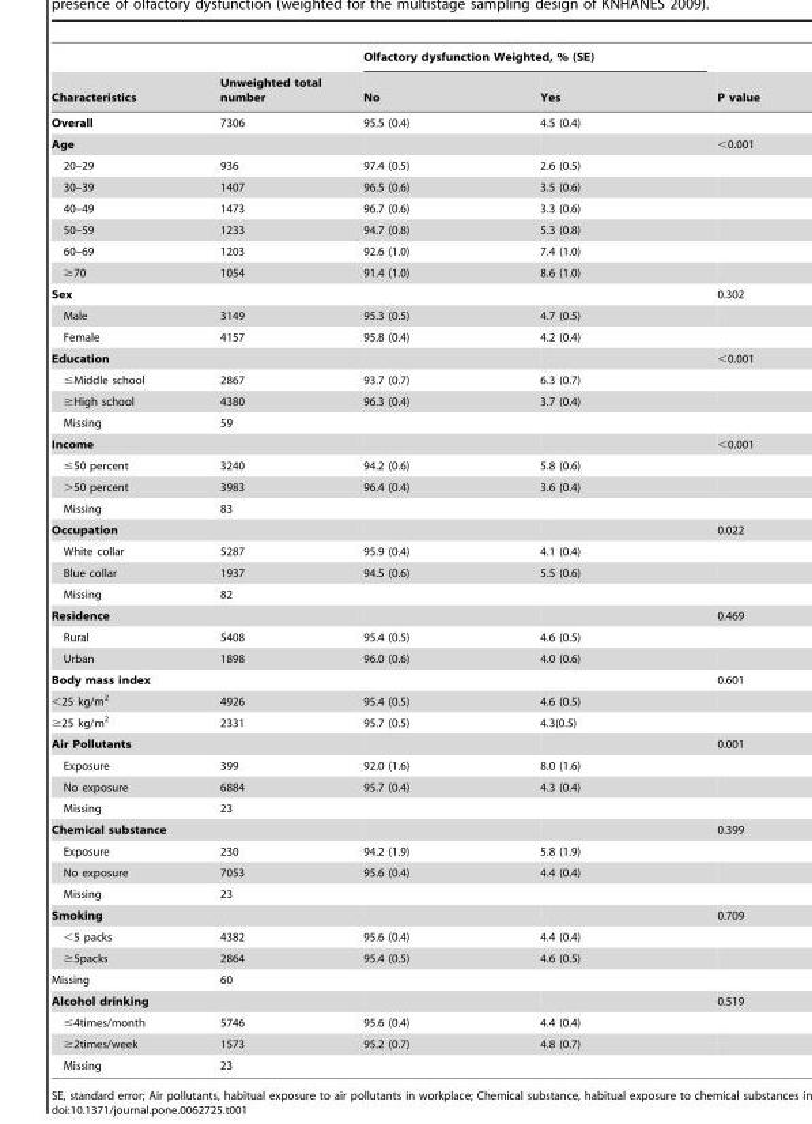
<table><thead><tr><td rowspan="2">Characteristics</td><td rowspan="2">Unweighted total number</td><td colspan="2">Olfactory dysfunction Weighted, % (SE)</td><td rowspan="2">P value</td></tr><tr><td>No</td><td>Yes</td></tr></thead><tbody><tr><td>Overall</td><td>7306</td><td>95.5 (0.4)</td><td>4.5 (0.4)</td><td></td></tr><tr><td>Age</td><td></td><td></td><td></td><td>&lt;0.001</td></tr><tr><td>20–29</td><td>936</td><td>97.4 (0.5)</td><td>2.6 (0.5)</td><td></td></tr><tr><td>30–39</td><td>1407</td><td>96.5 (0.6)</td><td>3.5 (0.6)</td><td></td></tr><tr><td>40–49</td><td>1473</td><td>96.7 (0.6)</td><td>3.3 (0.6)</td><td></td></tr><tr><td>50–59</td><td>1233</td><td>94.7 (0.8)</td><td>5.3 (0.8)</td><td></td></tr><tr><td>60–69</td><td>1203</td><td>92.6 (1.0)</td><td>7.4 (1.0)</td><td></td></tr><tr><td>≥70</td><td>1054</td><td>91.4 (1.0)</td><td>8.6 (1.0)</td><td></td></tr><tr><td>Sex</td><td></td><td></td><td></td><td>0.302</td></tr><tr><td>Male</td><td>3149</td><td>95.3 (0.5)</td><td>4.7 (0.5)</td><td></td></tr><tr><td>Female</td><td>4157</td><td>95.8 (0.4)</td><td>4.2 (0.4)</td><td></td></tr><tr><td>Education</td><td></td><td></td><td></td><td>&lt;0.001</td></tr><tr><td>≤Middle school</td><td>2867</td><td>93.7 (0.7)</td><td>6.3 (0.7)</td><td></td></tr><tr><td>≥High school</td><td>4380</td><td>96.3 (0.4)</td><td>3.7 (0.4)</td><td></td></tr><tr><td>Missing</td><td>59</td><td></td><td></td><td></td></tr><tr><td>Income</td><td></td><td></td><td></td><td>&lt;0.001</td></tr><tr><td>≤50 percent</td><td>3240</td><td>94.2 (0.6)</td><td>5.8 (0.6)</td><td></td></tr><tr><td>&gt;50 percent</td><td>3983</td><td>96.4 (0.4)</td><td>3.6 (0.4)</td><td></td></tr><tr><td>Missing</td><td>83</td><td></td><td></td><td></td></tr><tr><td>Occupation</td><td></td><td></td><td></td><td>0.022</td></tr><tr><td>White collar</td><td>5287</td><td>95.9 (0.4)</td><td>4.1 (0.4)</td><td></td></tr><tr><td>Blue collar</td><td>1937</td><td>94.5 (0.6)</td><td>5.5 (0.6)</td><td></td></tr><tr><td>Missing</td><td>82</td><td></td><td></td><td></td></tr><tr><td>Residence</td><td></td><td></td><td></td><td>0.469</td></tr><tr><td>Rural</td><td>5408</td><td>95.4 (0.5)</td><td>4.6 (0.5)</td><td></td></tr><tr><td>Urban</td><td>1898</td><td>96.0 (0.6)</td><td>4.0 (0.6)</td><td></td></tr><tr><td>Body mass index</td><td></td><td></td><td></td><td>0.601</td></tr><tr><td>&lt;25 kg/m<sup>2</sup></td><td>4926</td><td>95.4 (0.5)</td><td>4.6 (0.5)</td><td></td></tr><tr><td>≥25 kg/m<sup>2</sup></td><td>2331</td><td>95.7 (0.5)</td><td>4.3(0.5)</td><td></td></tr><tr><td>Air Pollutants</td><td></td><td></td><td></td><td>0.001</td></tr><tr><td>Exposure</td><td>399</td><td>92.0 (1.6)</td><td>8.0 (1.6)</td><td></td></tr><tr><td>No exposure</td><td>6884</td><td>95.7 (0.4)</td><td>4.3 (0.4)</td><td></td></tr><tr><td>Missing</td><td>23</td><td></td><td></td><td></td></tr><tr><td>Chemical substance</td><td></td><td></td><td></td><td>0.399</td></tr><tr><td>Exposure</td><td>230</td><td>94.2 (1.9)</td><td>5.8 (1.9)</td><td></td></tr><tr><td>No exposure</td><td>7053</td><td>95.6 (0.4)</td><td>4.4 (0.4)</td><td></td></tr><tr><td>Missing</td><td>23</td><td></td><td></td><td></td></tr><tr><td>Smoking</td><td></td><td></td><td></td><td>0.709</td></tr><tr><td>&lt;5 packs</td><td>4382</td><td>95.6 (0.4)</td><td>4.4 (0.4)</td><td></td></tr><tr><td>≥5packs</td><td>2864</td><td>95.4 (0.5)</td><td>4.6 (0.5)</td><td></td></tr><tr><td>Missing</td><td>60</td><td></td><td></td><td></td></tr><tr><td>Alcohol drinking</td><td></td><td></td><td></td><td>0.519</td></tr><tr><td>≤4times/month</td><td>5746</td><td>95.6 (0.4)</td><td>4.4 (0.4)</td><td></td></tr><tr><td>≥2times/week</td><td>1573</td><td>95.2 (0.7)</td><td>4.8 (0.7)</td><td></td></tr><tr><td>Missing</td><td>23</td><td></td><td></td><td></td></tr></tbody></table>